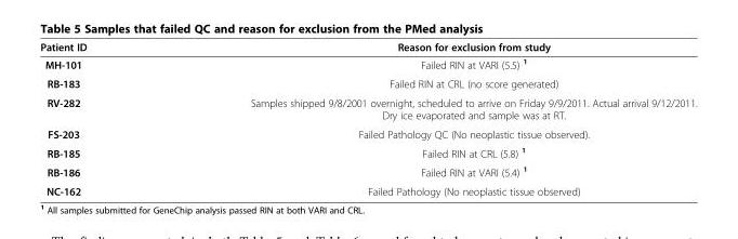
<table><thead><tr><td>Patient ID</td><td>Reason for exclusion from study</td></tr></thead><tbody><tr><td>MH-101</td><td>Failed RIN at VARI (5.5) <sup>1</sup></td></tr><tr><td>RB-183</td><td>Failed RIN at CRL (no score generated)</td></tr><tr><td>RV-282</td><td>Samples shipped 9/8/2001 overnight, scheduled to arrive on Friday 9/9/2011. Actual arrival 9/12/2011. Dry ice evaporated and sample was at RT.</td></tr><tr><td>FS-203</td><td>Failed Pathology QC (No neoplastic tissue observed).</td></tr><tr><td>RB-185</td><td>Failed RIN at CRL (5.8) <sup>1</sup></td></tr><tr><td>RB-186</td><td>Failed RIN at VARI (5.4) <sup>1</sup></td></tr><tr><td>NC-162</td><td>Failed Pathology (No neoplastic tissue observed)</td></tr></tbody></table>